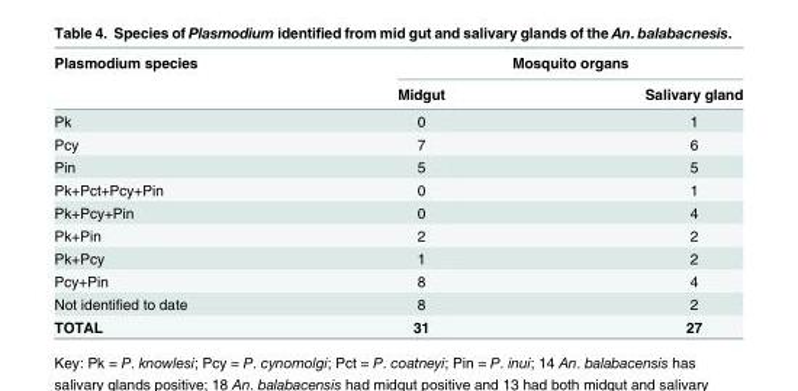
<table><thead><tr><td rowspan="2">Plasmodium species</td><td colspan="2">Mosquito organs</td></tr><tr><td>Midgut</td><td>Salivary gland</td></tr></thead><tbody><tr><td>Pk</td><td>0</td><td>1</td></tr><tr><td>Pcy</td><td>7</td><td>6</td></tr><tr><td>Pin</td><td>5</td><td>5</td></tr><tr><td>Pk+Pct+Pcy+Pin</td><td>0</td><td>1</td></tr><tr><td>Pk+Pcy+Pin</td><td>0</td><td>4</td></tr><tr><td>Pk+Pin</td><td>2</td><td>2</td></tr><tr><td>Pk+Pcy</td><td>1</td><td>2</td></tr><tr><td>Pcy+Pin</td><td>8</td><td>4</td></tr><tr><td>Not identified to date</td><td>8</td><td>2</td></tr><tr><td>TOTAL</td><td>31</td><td>27</td></tr></tbody></table>